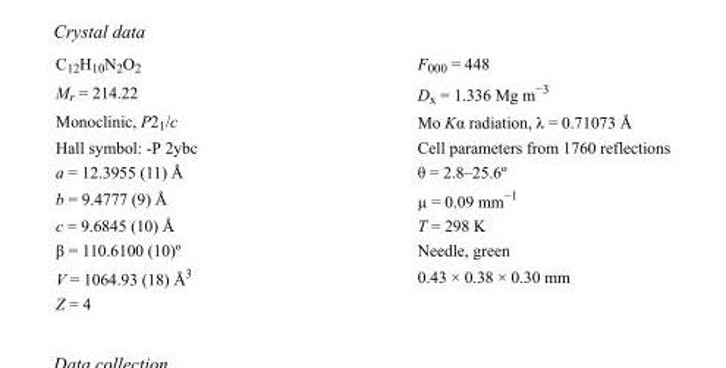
<table><tbody><tr><td>C<sub>12</sub>H<sub>10</sub>N<sub>2</sub>O<sub>2</sub></td><td>F000 = 448</td></tr><tr><td>M<sub>r</sub> = 214.22</td><td>D<sub>x</sub> = 1.336 Mg m<sup>−3</sup></td></tr><tr><td>Monoclinic, P2<sub>1</sub>/c</td><td>Mo Kα radiation, λ = 0.71073 Å</td></tr><tr><td>Hall symbol: -P 2ybc</td><td>Cell parameters from 1760 reflections</td></tr><tr><td>a = 12.3955 (11) Å</td><td>θ = 2.8–25.6º</td></tr><tr><td>b = 9.4777 (9) Å</td><td>µ = 0.09 mm<sup>−1</sup></td></tr><tr><td>c = 9.6845 (10) Å</td><td>T = 298 K</td></tr><tr><td>β = 110.6100 (10)º</td><td>Needle, green</td></tr><tr><td>V = 1064.93 (18) Å<sup>3</sup></td><td>0.43 × 0.38 × 0.30 mm</td></tr><tr><td>Z = 4</td><td></td></tr></tbody></table>